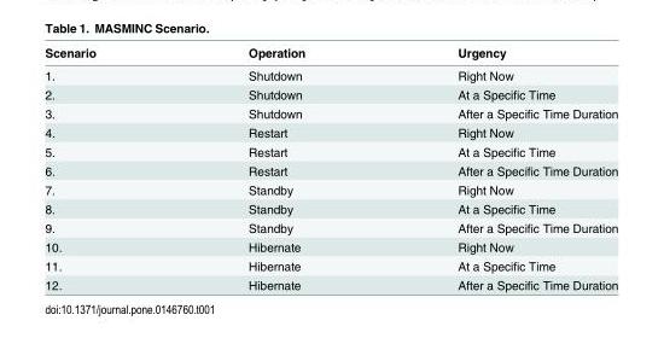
<table><thead><tr><td>Scenario</td><td>Operation</td><td>Urgency</td></tr></thead><tbody><tr><td>1.</td><td>Shutdown</td><td>Right Now</td></tr><tr><td>2.</td><td>Shutdown</td><td>At a Specific Time</td></tr><tr><td>3.</td><td>Shutdown</td><td>After a Specific Time Duration</td></tr><tr><td>4.</td><td>Restart</td><td>Right Now</td></tr><tr><td>5.</td><td>Restart</td><td>At a Specific Time</td></tr><tr><td>6.</td><td>Restart</td><td>After a Specific Time Duration</td></tr><tr><td>7.</td><td>Standby</td><td>Right Now</td></tr><tr><td>8.</td><td>Standby</td><td>At a Specific Time</td></tr><tr><td>9.</td><td>Standby</td><td>After a Specific Time Duration</td></tr><tr><td>10.</td><td>Hibernate</td><td>Right Now</td></tr><tr><td>11.</td><td>Hibernate</td><td>At a Specific Time</td></tr><tr><td>12.</td><td>Hibernate</td><td>After a Specific Time Duration</td></tr></tbody></table>